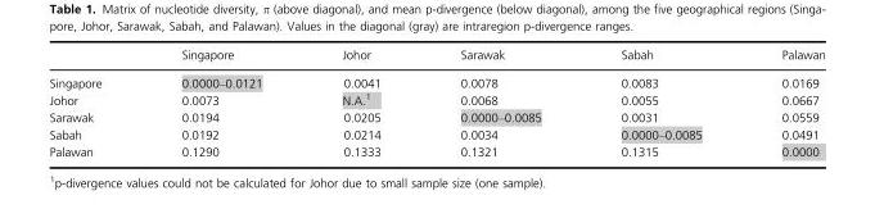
<table><thead><tr><td></td><td>Singapore</td><td>Johor</td><td>Sarawak</td><td>Sabah</td><td>Palawan</td></tr></thead><tbody><tr><td>Singapore</td><td>0.0000–0.0121</td><td>0.0041</td><td>0.0078</td><td>0.0083</td><td>0.0169</td></tr><tr><td>Johor</td><td>0.0073</td><td>N.A.1</td><td>0.0068</td><td>0.0055</td><td>0.0667</td></tr><tr><td>Sarawak</td><td>0.0194</td><td>0.0205</td><td>0.0000–0.0085</td><td>0.0031</td><td>0.0559</td></tr><tr><td>Sabah</td><td>0.0192</td><td>0.0214</td><td>0.0034</td><td>0.0000–0.0085</td><td>0.0491</td></tr><tr><td>Palawan</td><td>0.1290</td><td>0.1333</td><td>0.1321</td><td>0.1315</td><td>0.0000</td></tr></tbody></table>